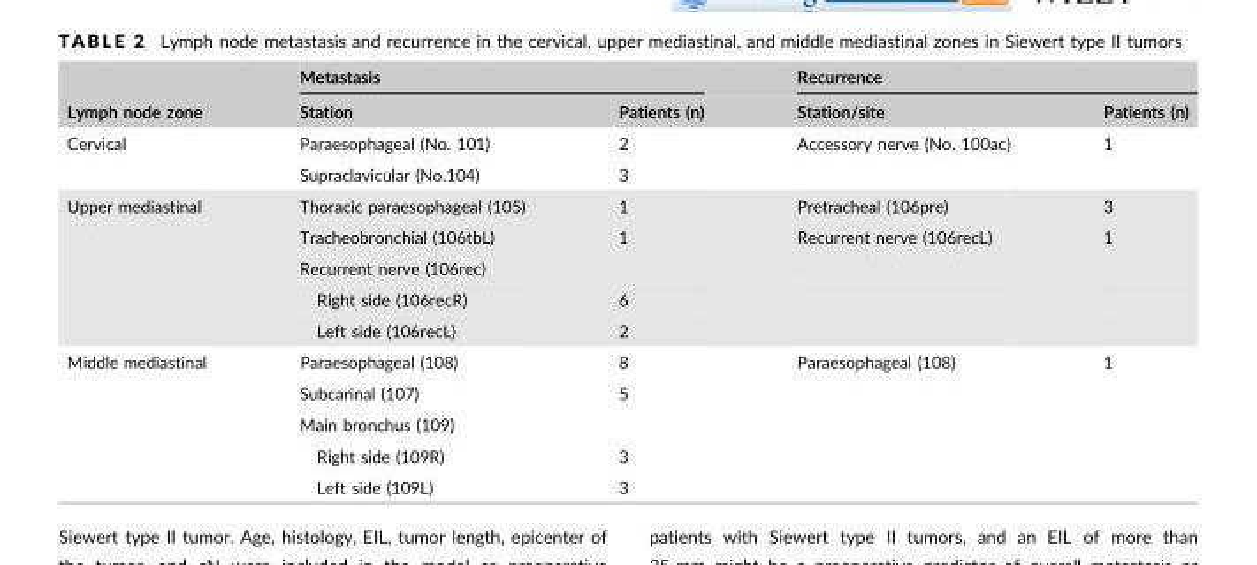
<table><thead><tr><td rowspan="2">Lymph node zone</td><td colspan="2">Metastasis</td><td colspan="2">Recurrence</td></tr><tr><td>Station</td><td>Patients (n)</td><td>Station/site</td><td>Patients (n)</td></tr></thead><tbody><tr><td rowspan="2">Cervical</td><td>Paraesophageal (No. 101)</td><td>2</td><td>Accessory nerve (No. 100ac)</td><td>1</td></tr><tr><td>Supraclavicular (No.104)</td><td>3</td><td></td><td></td></tr><tr><td rowspan="5">Upper mediastinal</td><td>Thoracic paraesophageal (105)</td><td>1</td><td>Pretracheal (106pre)</td><td>3</td></tr><tr><td>Tracheobronchial (106tbL)</td><td>1</td><td>Recurrent nerve (106recL)</td><td>1</td></tr><tr><td>Recurrent nerve (106rec)</td><td></td><td></td><td></td></tr><tr><td>Right side (106recR)</td><td>6</td><td></td><td></td></tr><tr><td>Left side (106recL)</td><td>2</td><td></td><td></td></tr><tr><td rowspan="5">Middle mediastinal</td><td>Paraesophageal (108)</td><td>8</td><td>Paraesophageal (108)</td><td>1</td></tr><tr><td>Subcarinal (107)</td><td>5</td><td></td><td></td></tr><tr><td>Main bronchus (109)</td><td></td><td></td><td></td></tr><tr><td>Right side (109R)</td><td>3</td><td></td><td></td></tr><tr><td>Left side (109L)</td><td>3</td><td></td><td></td></tr></tbody></table>